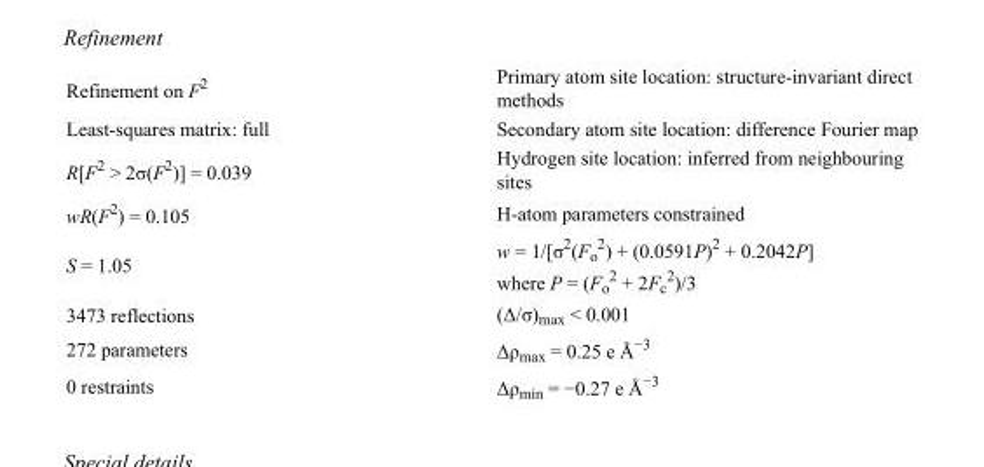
<table><tbody><tr><td>Refinement on F<sup>2</sup></td><td>Primary atom site location: structure-invariant direct methods</td></tr><tr><td>Least-squares matrix: full</td><td>Secondary atom site location: difference Fourier map</td></tr><tr><td>R[F<sup>2</sup> &gt; 2σ(F<sup>2</sup>)] = 0.039</td><td>Hydrogen site location: inferred from neighbouring sites</td></tr><tr><td>wR(F<sup>2</sup>) = 0.105</td><td>H-atom parameters constrained</td></tr><tr><td>S = 1.05</td><td>w = 1/[σ<sup>2</sup>(F<sub>o</sub> <sup>2</sup>) + (0.0591P)<sup>2</sup> + 0.2042P] where P = (F<sub>o</sub> <sup>2</sup> + 2F<sub>c</sub> <sup>2</sup>)/3</td></tr><tr><td>3473 reflections</td><td>(Δ/σ)<sub>max</sub> &lt; 0.001</td></tr><tr><td>272 parameters</td><td>Δρ<sub>max</sub> = 0.25 e Å<sup>−3</sup></td></tr><tr><td>0 restraints</td><td>Δρ<sub>min</sub> = −0.27 e Å<sup>−3</sup></td></tr></tbody></table>